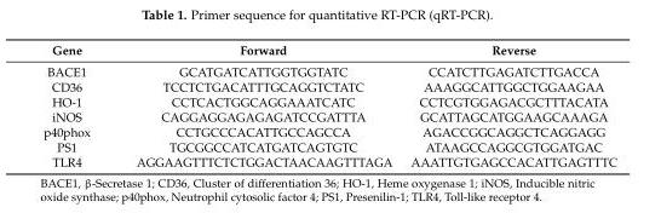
<table><thead><tr><td>Gene</td><td>Forward</td><td>Reverse</td></tr></thead><tbody><tr><td>BACE1</td><td>GCATGATCATTGGTGGTATC</td><td>CCATCTTGAGATCTTGACCA</td></tr><tr><td>CD36</td><td>TCCTCTGACATTTGCAGGTCTATC</td><td>AAAGGCATTGGCTGGAAGAA</td></tr><tr><td>HO-1</td><td>CCTCACTGGCAGGAAATCATC</td><td>CCTCGTGGAGACGCTTTACATA</td></tr><tr><td>iNOS</td><td>CAGGAGGAGAGAGATCCGATTTA</td><td>GCATTAGCATGGAAGCAAAGA</td></tr><tr><td>p40phox</td><td>CCTGCCCACATTGCCAGCCA</td><td>AGACCGGCAGGCTCAGGAGG</td></tr><tr><td>PS1</td><td>TGCGGCCATCATGATCAGTGTC</td><td>ATAAGCCAGGCGTGGATGAC</td></tr><tr><td>TLR4</td><td>AGGAAGTTTCTCTGGACTAACAAGTTTAGA</td><td>AAATTGTGAGCCACATTGAGTTTC</td></tr></tbody></table>